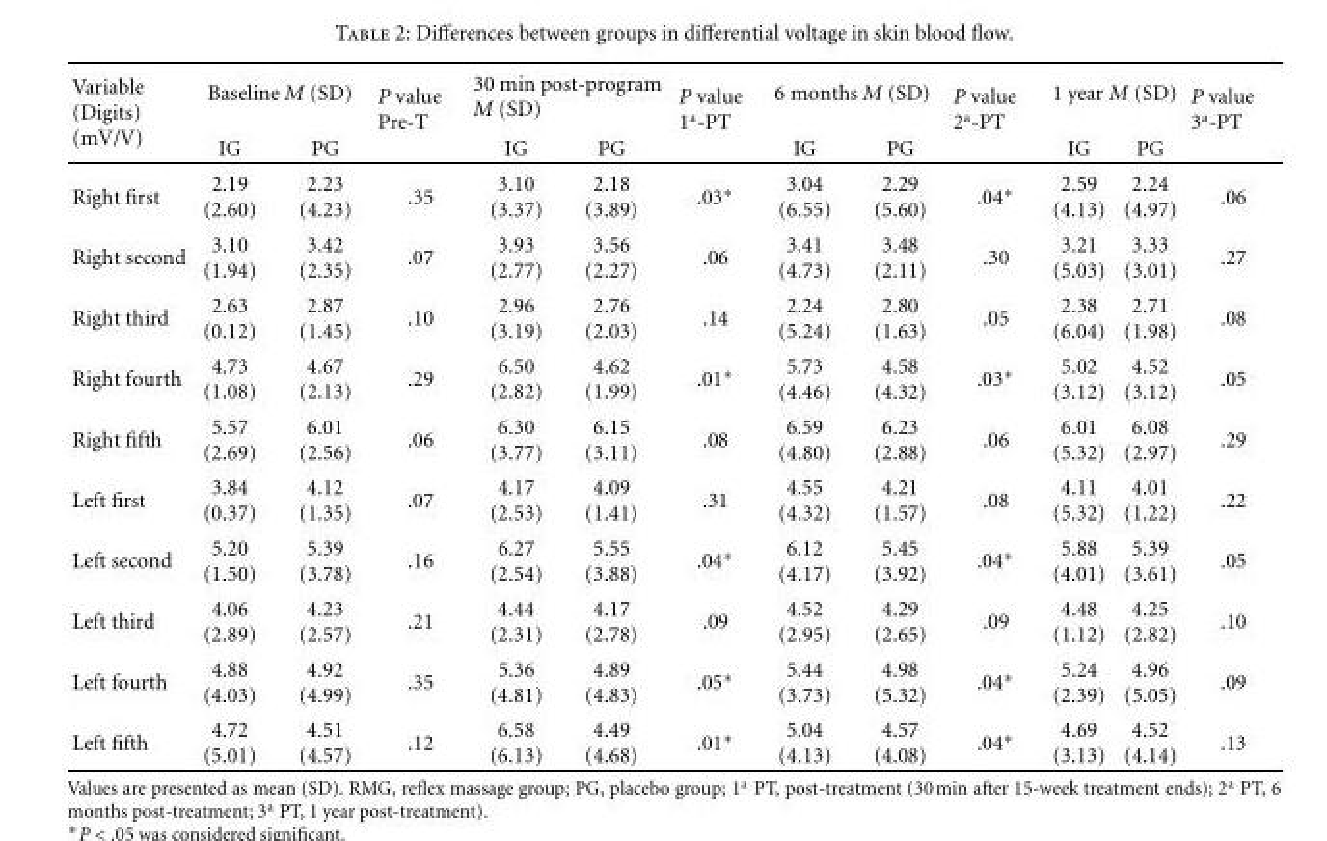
<table><thead><tr><td rowspan="2">Variable (Digits) (mV/V)</td><td colspan="2">Baseline M (SD)</td><td rowspan="2">P value Pre-T</td><td colspan="2">30 min post-program M (SD)</td><td rowspan="2">P value 1<sup>a</sup>-PT</td><td colspan="2">6 months M (SD)</td><td rowspan="2">P value 2<sup>a</sup>-PT</td><td colspan="2">1 year M (SD)</td><td rowspan="2">P value 3<sup>a</sup>-PT</td></tr><tr><td>IG</td><td>PG</td><td>IG</td><td>PG</td><td>IG</td><td>PG</td><td>IG</td><td>PG</td></tr></thead><tbody><tr><td>Right first</td><td>2.19 (2.60)</td><td>2.23 (4.23)</td><td>.35</td><td>3.10 (3.37)</td><td>2.18 (3.89)</td><td>.03∗</td><td>3.04 (6.55)</td><td>2.29 (5.60)</td><td>.04∗</td><td>2.59 (4.13)</td><td>2.24 (4.97)</td><td>.06</td></tr><tr><td>Right second</td><td>3.10 (1.94)</td><td>3.42 (2.35)</td><td>.07</td><td>3.93 (2.77)</td><td>3.56 (2.27)</td><td>.06</td><td>3.41 (4.73)</td><td>3.48 (2.11)</td><td>.30</td><td>3.21 (5.03)</td><td>3.33 (3.01)</td><td>.27</td></tr><tr><td>Right third</td><td>2.63 (0.12)</td><td>2.87 (1.45)</td><td>.10</td><td>2.96 (3.19)</td><td>2.76 (2.03)</td><td>.14</td><td>2.24 (5.24)</td><td>2.80 (1.63)</td><td>.05</td><td>2.38 (6.04)</td><td>2.71 (1.98)</td><td>.08</td></tr><tr><td>Right fourth</td><td>4.73 (1.08)</td><td>4.67 (2.13)</td><td>.29</td><td>6.50 (2.82)</td><td>4.62 (1.99)</td><td>.01∗</td><td>5.73 (4.46)</td><td>4.58 (4.32)</td><td>.03∗</td><td>5.02 (3.12)</td><td>4.52 (3.12)</td><td>.05</td></tr><tr><td>Right fifth</td><td>5.57 (2.69)</td><td>6.01 (2.56)</td><td>.06</td><td>6.30 (3.77)</td><td>6.15 (3.11)</td><td>.08</td><td>6.59 (4.80)</td><td>6.23 (2.88)</td><td>.06</td><td>6.01 (5.32)</td><td>6.08 (2.97)</td><td>.29</td></tr><tr><td>Left first</td><td>3.84 (0.37)</td><td>4.12 (1.35)</td><td>.07</td><td>4.17 (2.53)</td><td>4.09 (1.41)</td><td>.31</td><td>4.55 (4.32)</td><td>4.21 (1.57)</td><td>.08</td><td>4.11 (5.32)</td><td>4.01 (1.22)</td><td>.22</td></tr><tr><td>Left second</td><td>5.20 (1.50)</td><td>5.39 (3.78)</td><td>.16</td><td>6.27 (2.54)</td><td>5.55 (3.88)</td><td>.04∗</td><td>6.12 (4.17)</td><td>5.45 (3.92)</td><td>.04∗</td><td>5.88 (4.01)</td><td>5.39 (3.61)</td><td>.05</td></tr><tr><td>Left third</td><td>4.06 (2.89)</td><td>4.23 (2.57)</td><td>.21</td><td>4.44 (2.31)</td><td>4.17 (2.78)</td><td>.09</td><td>4.52 (2.95)</td><td>4.29 (2.65)</td><td>.09</td><td>4.48 (1.12)</td><td>4.25 (2.82)</td><td>.10</td></tr><tr><td>Left fourth</td><td>4.88 (4.03)</td><td>4.92 (4.99)</td><td>.35</td><td>5.36 (4.81)</td><td>4.89 (4.83)</td><td>.05∗</td><td>5.44 (3.73)</td><td>4.98 (5.32)</td><td>.04∗</td><td>5.24 (2.39)</td><td>4.96 (5.05)</td><td>.09</td></tr><tr><td>Left fifth</td><td>4.72 (5.01)</td><td>4.51 (4.57)</td><td>.12</td><td>6.58 (6.13)</td><td>4.49 (4.68)</td><td>.01∗</td><td>5.04 (4.13)</td><td>4.57 (4.08)</td><td>.04∗</td><td>4.69 (3.13)</td><td>4.52 (4.14)</td><td>.13</td></tr></tbody></table>